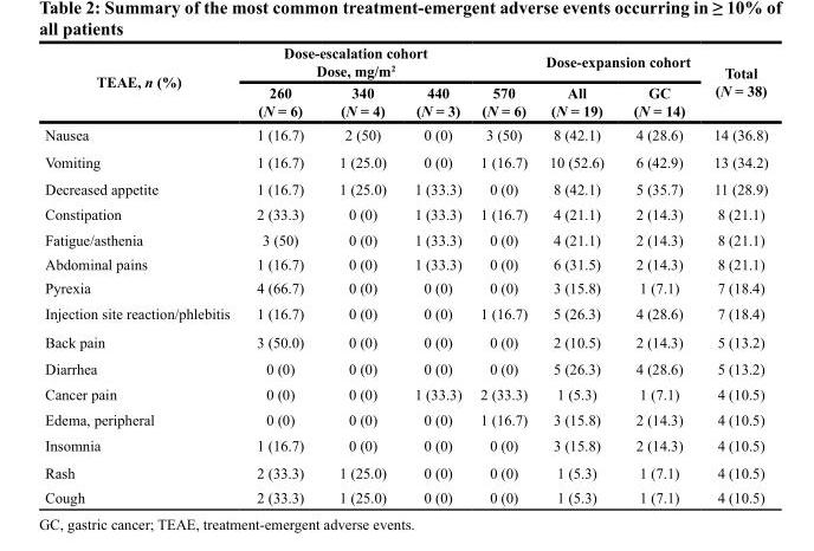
<table><thead><tr><td rowspan="2">TEAE, n (%)</td><td colspan="3">Dose-escalation cohort Dose, mg/m<sup>2</sup></td><td rowspan="2">570 (N = 6)</td><td colspan="2">Dose-expansion cohort</td><td rowspan="2">Total (N = 38)</td></tr><tr><td>260 (N = 6)</td><td>340 (N = 4)</td><td>440 (N = 3)</td><td>All (N = 19)</td><td>GC (N = 14)</td></tr></thead><tbody><tr><td>Nausea</td><td>1 (16.7)</td><td>2 (50)</td><td>0 (0)</td><td>3 (50)</td><td>8 (42.1)</td><td>4 (28.6)</td><td>14 (36.8)</td></tr><tr><td>Vomiting</td><td>1 (16.7)</td><td>1 (25.0)</td><td>0 (0)</td><td>1 (16.7)</td><td>10 (52.6)</td><td>6 (42.9)</td><td>13 (34.2)</td></tr><tr><td>Decreased appetite</td><td>1 (16.7)</td><td>1 (25.0)</td><td>1 (33.3)</td><td>0 (0)</td><td>8 (42.1)</td><td>5 (35.7)</td><td>11 (28.9)</td></tr><tr><td>Constipation</td><td>2 (33.3)</td><td>0 (0)</td><td>1 (33.3)</td><td>1 (16.7)</td><td>4 (21.1)</td><td>2 (14.3)</td><td>8 (21.1)</td></tr><tr><td>Fatigue/asthenia</td><td>3 (50)</td><td>0 (0)</td><td>1 (33.3)</td><td>0 (0)</td><td>4 (21.1)</td><td>2 (14.3)</td><td>8 (21.1)</td></tr><tr><td>Abdominal pains</td><td>1 (16.7)</td><td>0 (0)</td><td>1 (33.3)</td><td>0 (0)</td><td>6 (31.5)</td><td>2 (14.3)</td><td>8 (21.1)</td></tr><tr><td>Pyrexia</td><td>4 (66.7)</td><td>0 (0)</td><td>0 (0)</td><td>0 (0)</td><td>3 (15.8)</td><td>1 (7.1)</td><td>7 (18.4)</td></tr><tr><td>Injection site reaction/phlebitis</td><td>1 (16.7)</td><td>0 (0)</td><td>0 (0)</td><td>1 (16.7)</td><td>5 (26.3)</td><td>4 (28.6)</td><td>7 (18.4)</td></tr><tr><td>Back pain</td><td>3 (50.0)</td><td>0 (0)</td><td>0 (0)</td><td>0 (0)</td><td>2 (10.5)</td><td>2 (14.3)</td><td>5 (13.2)</td></tr><tr><td>Diarrhea</td><td>0 (0)</td><td>0 (0)</td><td>0 (0)</td><td>0 (0)</td><td>5 (26.3)</td><td>4 (28.6)</td><td>5 (13.2)</td></tr><tr><td>Cancer pain</td><td>0 (0)</td><td>0 (0)</td><td>1 (33.3)</td><td>2 (33.3)</td><td>1 (5.3)</td><td>1 (7.1)</td><td>4 (10.5)</td></tr><tr><td>Edema, peripheral</td><td>0 (0)</td><td>0 (0)</td><td>0 (0)</td><td>1 (16.7)</td><td>3 (15.8)</td><td>2 (14.3)</td><td>4 (10.5)</td></tr><tr><td>Insomnia</td><td>1 (16.7)</td><td>0 (0)</td><td>0 (0)</td><td>0 (0)</td><td>3 (15.8)</td><td>2 (14.3)</td><td>4 (10.5)</td></tr><tr><td>Rash</td><td>2 (33.3)</td><td>1 (25.0)</td><td>0 (0)</td><td>0 (0)</td><td>1 (5.3)</td><td>1 (7.1)</td><td>4 (10.5)</td></tr><tr><td>Cough</td><td>2 (33.3)</td><td>1 (25.0)</td><td>0 (0)</td><td>0 (0)</td><td>1 (5.3)</td><td>1 (7.1)</td><td>4 (10.5)</td></tr></tbody></table>